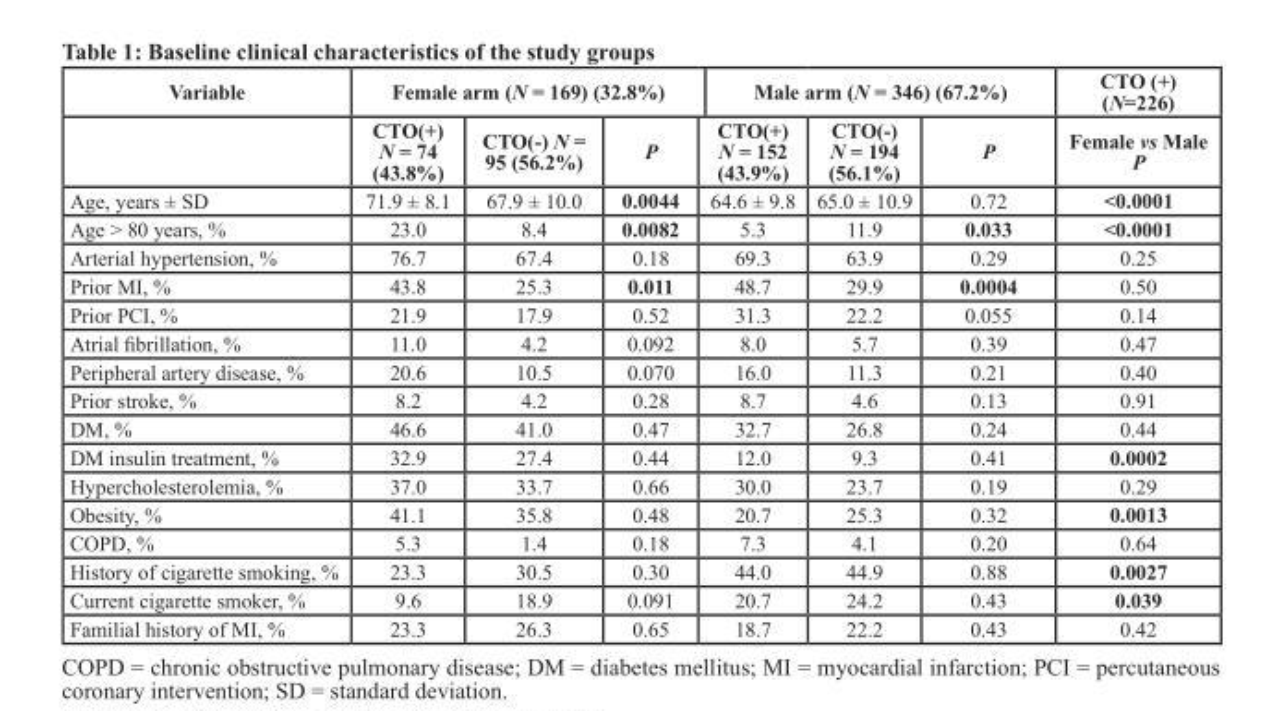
<table><thead><tr><td rowspan="2">Variable</td><td colspan="3">Female arm (N = 169) (32.8%)</td><td colspan="3">Male arm (N = 346) (67.2%)</td><td rowspan="2">CTO (+) (N=226) Female vs Male P</td></tr><tr><td>CTO(+) N = 74 (43.8%)</td><td>CTO(-) N = 95 (56.2%)</td><td>P</td><td>CTO(+) N = 152 (43.9%)</td><td>CTO(-) N = 194 (56.1%)</td><td>P</td></tr></thead><tbody><tr><td>Age, years ± SD</td><td>71.9 ± 8.1</td><td>67.9 ± 10.0</td><td>0.0044</td><td>64.6 ± 9.8</td><td>65.0 ± 10.9</td><td>0.72</td><td>&lt;0.0001</td></tr><tr><td>Age &gt; 80 years, %</td><td>23.0</td><td>8.4</td><td>0.0082</td><td>5.3</td><td>11.9</td><td>0.033</td><td>&lt;0.0001</td></tr><tr><td>Arterial hypertension, %</td><td>76.7</td><td>67.4</td><td>0.18</td><td>69.3</td><td>63.9</td><td>0.29</td><td>0.25</td></tr><tr><td>Prior MI, %</td><td>43.8</td><td>25.3</td><td>0.011</td><td>48.7</td><td>29.9</td><td>0.0004</td><td>0.50</td></tr><tr><td>Prior PCI, %</td><td>21.9</td><td>17.9</td><td>0.52</td><td>31.3</td><td>22.2</td><td>0.055</td><td>0.14</td></tr><tr><td>Atrial fibrillation, %</td><td>11.0</td><td>4.2</td><td>0.092</td><td>8.0</td><td>5.7</td><td>0.39</td><td>0.47</td></tr><tr><td>Peripheral artery disease, %</td><td>20.6</td><td>10.5</td><td>0.070</td><td>16.0</td><td>11.3</td><td>0.21</td><td>0.40</td></tr><tr><td>Prior stroke, %</td><td>8.2</td><td>4.2</td><td>0.28</td><td>8.7</td><td>4.6</td><td>0.13</td><td>0.91</td></tr><tr><td>DM, %</td><td>46.6</td><td>41.0</td><td>0.47</td><td>32.7</td><td>26.8</td><td>0.24</td><td>0.44</td></tr><tr><td>DM insulin treatment, %</td><td>32.9</td><td>27.4</td><td>0.44</td><td>12.0</td><td>9.3</td><td>0.41</td><td>0.0002</td></tr><tr><td>Hypercholesterolemia, %</td><td>37.0</td><td>33.7</td><td>0.66</td><td>30.0</td><td>23.7</td><td>0.19</td><td>0.29</td></tr><tr><td>Obesity, %</td><td>41.1</td><td>35.8</td><td>0.48</td><td>20.7</td><td>25.3</td><td>0.32</td><td>0.0013</td></tr><tr><td>COPD, %</td><td>5.3</td><td>1.4</td><td>0.18</td><td>7.3</td><td>4.1</td><td>0.20</td><td>0.64</td></tr><tr><td>History of cigarette smoking, %</td><td>23.3</td><td>30.5</td><td>0.30</td><td>44.0</td><td>44.9</td><td>0.88</td><td>0.0027</td></tr><tr><td>Current cigarette smoker, %</td><td>9.6</td><td>18.9</td><td>0.091</td><td>20.7</td><td>24.2</td><td>0.43</td><td>0.039</td></tr><tr><td>Familial history of MI, %</td><td>23.3</td><td>26.3</td><td>0.65</td><td>18.7</td><td>22.2</td><td>0.43</td><td>0.42</td></tr></tbody></table>